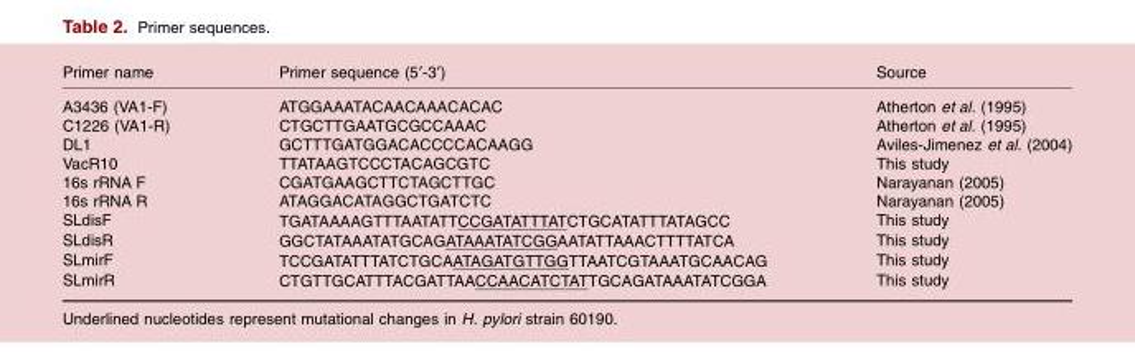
<table><thead><tr><td>Primer name</td><td>Primer sequence (5′-3′)</td><td>Source</td></tr></thead><tbody><tr><td>A3436 (VA1-F)</td><td>ATGGAAATACAACAAACACAC</td><td>Atherton et al. (1995)</td></tr><tr><td>C1226 (VA1-R)</td><td>CTGCTTGAATGCGCCAAAC</td><td>Atherton et al. (1995)</td></tr><tr><td>DL1</td><td>GCTTTGATGGACACCCCACAAGG</td><td>Aviles-Jimenez et al. (2004)</td></tr><tr><td>VacR10</td><td>TTATAAGTCCCTACAGCGTC</td><td>This study</td></tr><tr><td>16s rRNA F</td><td>CGATGAAGCTTCTAGCTTGC</td><td>Narayanan (2005)</td></tr><tr><td>16s rRNA R</td><td>ATAGGACATAGGCTGATCTC</td><td>Narayanan (2005)</td></tr><tr><td>SLdisF</td><td>TGATAAAAGTTTAATATTCCGATATTTATCTGCATATTTATAGCC</td><td>This study</td></tr><tr><td>SLdisR</td><td>GGCTATAAATATGCAGATAAATATCGGAATATTAAACTTTTATCA</td><td>This study</td></tr><tr><td>SLmirF</td><td>TCCGATATTTATCTGCAATAGATGTTGGTTAATCGTAAATGCAACAG</td><td>This study</td></tr><tr><td>SLmirR</td><td>CTGTTGCATTTACGATTAACCAACATCTATTGCAGATAAATATCGGA</td><td>This study</td></tr></tbody></table>